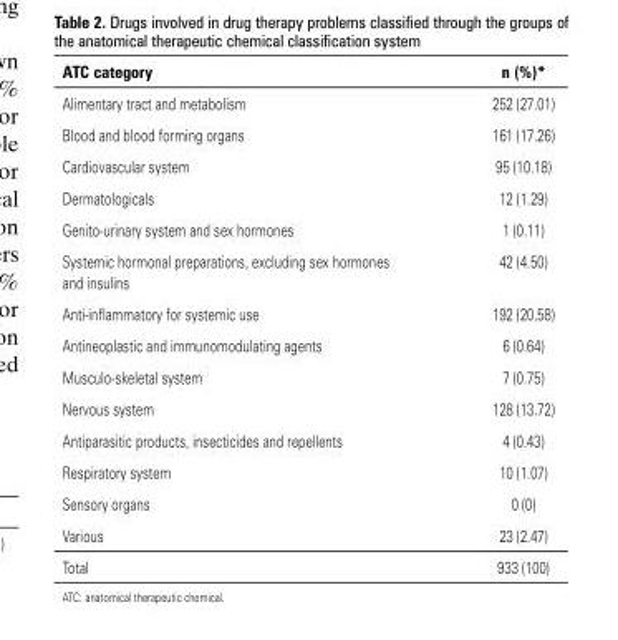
<table><thead><tr><td>ATC category</td><td>n (%)*</td></tr></thead><tbody><tr><td>Alimentary tract and metabolism</td><td>252 (27.01)</td></tr><tr><td>Blood and blood forming organs</td><td>161 (17.26)</td></tr><tr><td>Cardiovascular system</td><td>95 (10.18)</td></tr><tr><td>Dermatologicals</td><td>12 (1.29)</td></tr><tr><td>Genito-urinary system and sex hormones</td><td>1 (0.11)</td></tr><tr><td>Systemic hormonal preparations, excluding sex hormones and insulins</td><td>42 (4.50)</td></tr><tr><td>Anti-inflammatory for systemic use</td><td>192 (20.58)</td></tr><tr><td>Antineoplastic and immunomodulating agents</td><td>6 (0.64)</td></tr><tr><td>Musculo-skeletal system</td><td>7 (0.75)</td></tr><tr><td>Nervous system</td><td>128 (13.72)</td></tr><tr><td>Antiparasitic products, insecticides and repellents</td><td>4 (0.43)</td></tr><tr><td>Respiratory system</td><td>10 (1.07)</td></tr><tr><td>Sensory organs</td><td>0 (0)</td></tr><tr><td>Various</td><td>23 (2.47)</td></tr><tr><td>Total</td><td>933 (100)</td></tr></tbody></table>